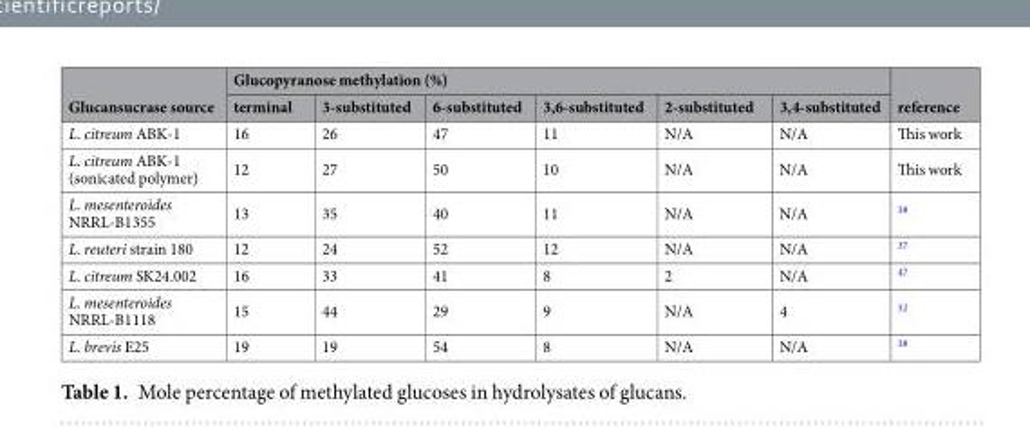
<table><thead><tr><td rowspan="2">Glucansucrase source</td><td colspan="6">Glucopyranose methylation (%)</td><td rowspan="2">reference</td></tr><tr><td>terminal</td><td>3-substituted</td><td>6-substituted</td><td>3,6-substituted</td><td>2-substituted</td><td>3,4-substituted</td></tr></thead><tbody><tr><td>L. citreum ABK-1</td><td>16</td><td>26</td><td>47</td><td>11</td><td>N/A</td><td>N/A</td><td>This work</td></tr><tr><td>L. citreum ABK-1 (sonicated polymer)</td><td>12</td><td>27</td><td>50</td><td>10</td><td>N/A</td><td>N/A</td><td>This work</td></tr><tr><td>L. mesenteroides NRRL-B1355</td><td>13</td><td>35</td><td>40</td><td>11</td><td>N/A</td><td>N/A</td><td><sup>38</sup></td></tr><tr><td>L. reuteri strain 180</td><td>12</td><td>24</td><td>52</td><td>12</td><td>N/A</td><td>N/A</td><td><sup>37</sup></td></tr><tr><td>L. citreum SK24.002</td><td>16</td><td>33</td><td>41</td><td>8</td><td>2</td><td>N/A</td><td><sup>47</sup></td></tr><tr><td>L. mesenteroides NRRL-B1118</td><td>15</td><td>44</td><td>29</td><td>9</td><td>N/A</td><td>4</td><td><sup>32</sup></td></tr><tr><td>L. brevis E25</td><td>19</td><td>19</td><td>54</td><td>8</td><td>N/A</td><td>N/A</td><td><sup>38</sup></td></tr></tbody></table>